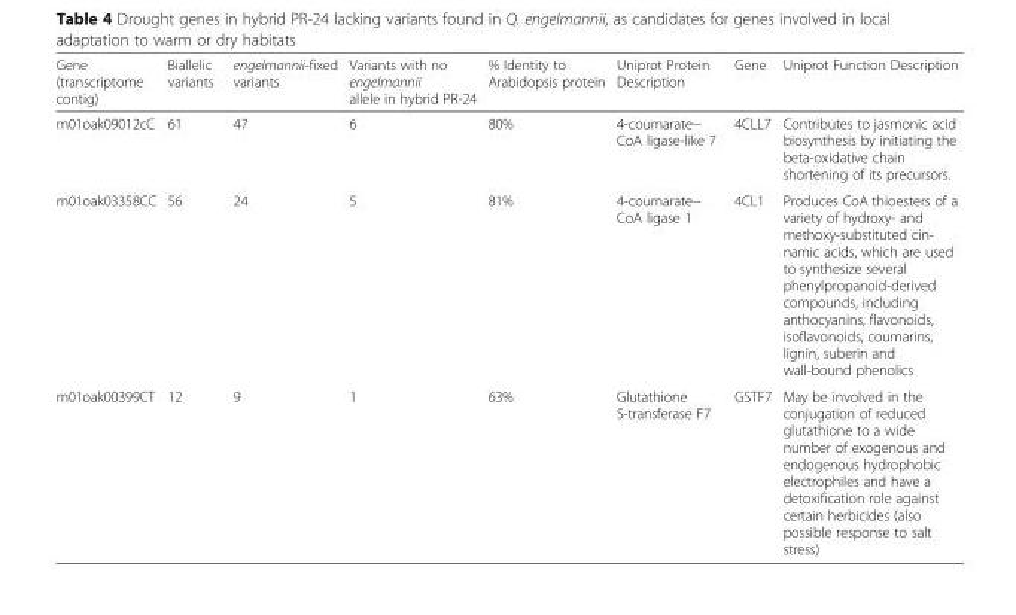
<table><thead><tr><td>Gene (transcriptome contig)</td><td>Biallelic variants</td><td>engelmannii-fixed variants</td><td>Variants with no engelmannii allele in hybrid PR-24</td><td>% Identity to Arabidopsis protein</td><td>Uniprot Protein Description</td><td>Gene</td><td>Uniprot Function Description</td></tr></thead><tbody><tr><td>m01oak09012cC</td><td>61</td><td>47</td><td>6</td><td>80%</td><td>4-coumarate-- CoA ligase-like 7</td><td>4CLL7</td><td>Contributes to jasmonic acid biosynthesis by initiating the beta-oxidative chain shortening of its precursors.</td></tr><tr><td>m01oak03358CC</td><td>56</td><td>24</td><td>5</td><td>81%</td><td>4-coumarate-- CoA ligase 1</td><td>4CL1</td><td>Produces CoA thioesters of a variety of hydroxy- and methoxy-substituted cin- namic acids, which are used to synthesize several phenylpropanoid-derived compounds, including anthocyanins, flavonoids, isoflavonoids, coumarins, lignin, suberin and wall-bound phenolics</td></tr><tr><td>m01oak00399CT</td><td>12</td><td>9</td><td>1</td><td>63%</td><td>Glutathione S-transferase F7</td><td>GSTF7</td><td>May be involved in the conjugation of reduced glutathione to a wide number of exogenous and endogenous hydrophobic electrophiles and have a detoxification role against certain herbicides (also possible response to salt stress)</td></tr></tbody></table>